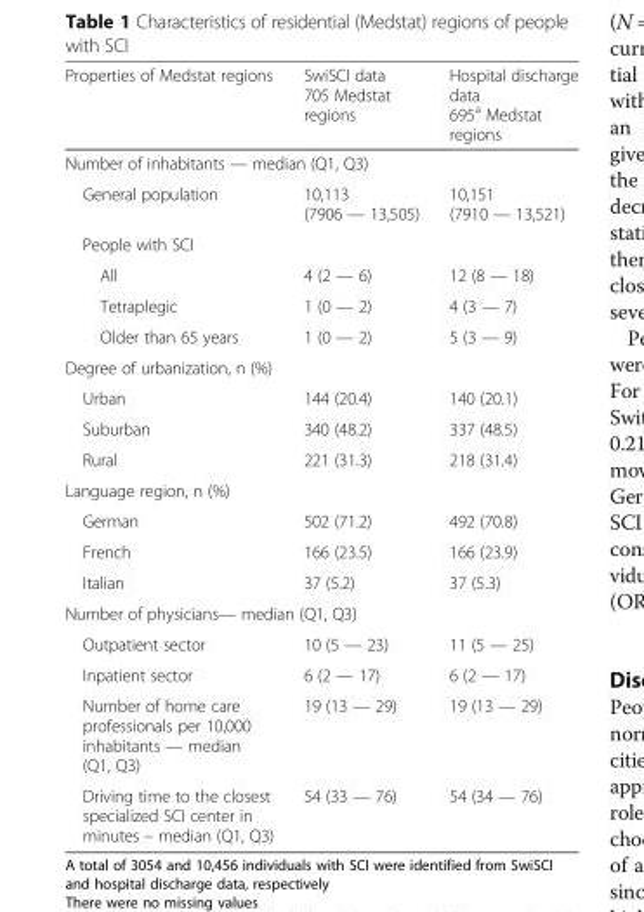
<table><thead><tr><td>Properties of Medstat regions</td><td>SwiSCI data 705 Medstat regions</td><td>Hospital discharge data 695<sup>a</sup> Medstat regions</td></tr></thead><tbody><tr><td colspan="3">Number of inhabitants — median (Q1, Q3)</td></tr><tr><td>General population</td><td>10,113 (7906 — 13,505)</td><td>10,151 (7910 — 13,521)</td></tr><tr><td colspan="3">People with SCI</td></tr><tr><td>All</td><td>4 (2 — 6)</td><td>12 (8 — 18)</td></tr><tr><td>Tetraplegic</td><td>1 (0 — 2)</td><td>4 (3 — 7)</td></tr><tr><td>Older than 65 years</td><td>1 (0 — 2)</td><td>5 (3 — 9)</td></tr><tr><td colspan="3">Degree of urbanization, n (%)</td></tr><tr><td>Urban</td><td>144 (20.4)</td><td>140 (20.1)</td></tr><tr><td>Suburban</td><td>340 (48.2)</td><td>337 (48.5)</td></tr><tr><td>Rural</td><td>221 (31.3)</td><td>218 (31.4)</td></tr><tr><td colspan="3">Language region, n (%)</td></tr><tr><td>German</td><td>502 (71.2)</td><td>492 (70.8)</td></tr><tr><td>French</td><td>166 (23.5)</td><td>166 (23.9)</td></tr><tr><td>Italian</td><td>37 (5.2)</td><td>37 (5.3)</td></tr><tr><td colspan="3">Number of physicians— median (Q1, Q3)</td></tr><tr><td>Outpatient sector</td><td>10 (5 — 23)</td><td>11 (5 — 25)</td></tr><tr><td>Inpatient sector</td><td>6 (2 — 17)</td><td>6 (2 — 17)</td></tr><tr><td>Number of home care professionals per 10,000 inhabitants — median (Q1, Q3)</td><td>19 (13 — 29)</td><td>19 (13 — 29)</td></tr><tr><td>Driving time to the closest specialized SCI center in minutes – median (Q1, Q3)</td><td>54 (33 — 76)</td><td>54 (34 — 76)</td></tr></tbody></table>